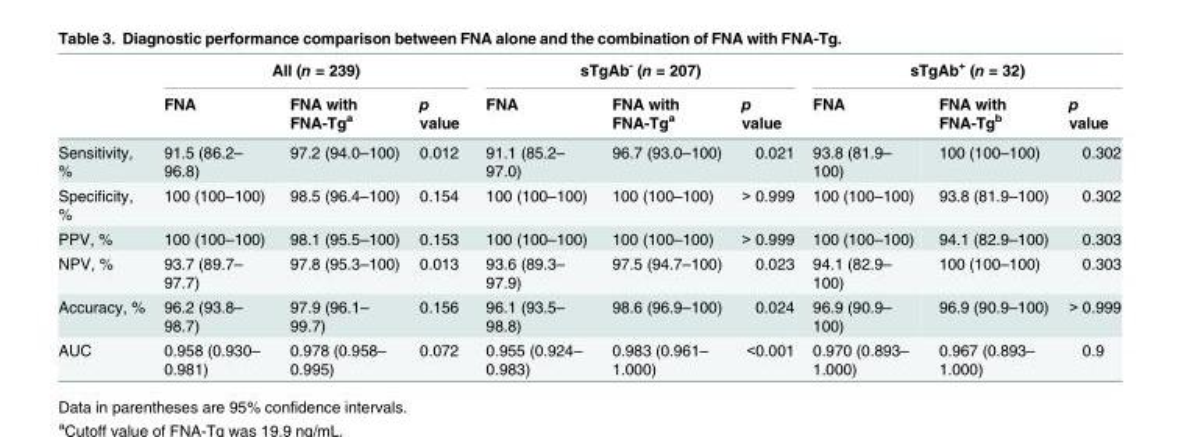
<table><thead><tr><td rowspan="2"></td><td colspan="3">All (n = 239)</td><td colspan="3">sTgAb<sup>-</sup> (n = 207)</td><td colspan="3">sTgAb<sup>+</sup> (n = 32)</td></tr><tr><td>FNA</td><td>FNA with FNA-Tg<sup>a</sup></td><td>p value</td><td>FNA</td><td>FNA with FNA-Tg<sup>a</sup></td><td>p value</td><td>FNA</td><td>FNA with FNA-Tg<sup>b</sup></td><td>p value</td></tr></thead><tbody><tr><td>Sensitivity, %</td><td>91.5 (86.2– 96.8)</td><td>97.2 (94.0–100)</td><td>0.012</td><td>91.1 (85.2– 97.0)</td><td>96.7 (93.0–100)</td><td>0.021</td><td>93.8 (81.9– 100)</td><td>100 (100–100)</td><td>0.302</td></tr><tr><td>Specificity, %</td><td>100 (100–100)</td><td>98.5 (96.4–100)</td><td>0.154</td><td>100 (100–100)</td><td>100 (100–100)</td><td>&gt; 0.999</td><td>100 (100–100)</td><td>93.8 (81.9–100)</td><td>0.302</td></tr><tr><td>PPV, %</td><td>100 (100–100)</td><td>98.1 (95.5–100)</td><td>0.153</td><td>100 (100–100)</td><td>100 (100–100)</td><td>&gt; 0.999</td><td>100 (100–100)</td><td>94.1 (82.9–100)</td><td>0.303</td></tr><tr><td>NPV, %</td><td>93.7 (89.7– 97.7)</td><td>97.8 (95.3–100)</td><td>0.013</td><td>93.6 (89.3– 97.9)</td><td>97.5 (94.7–100)</td><td>0.023</td><td>94.1 (82.9– 100)</td><td>100 (100–100)</td><td>0.303</td></tr><tr><td>Accuracy, %</td><td>96.2 (93.8– 98.7)</td><td>97.9 (96.1– 99.7)</td><td>0.156</td><td>96.1 (93.5– 98.8)</td><td>98.6 (96.9–100)</td><td>0.024</td><td>96.9 (90.9– 100)</td><td>96.9 (90.9–100)</td><td>&gt; 0.999</td></tr><tr><td>AUC</td><td>0.958 (0.930– 0.981)</td><td>0.978 (0.958– 0.995)</td><td>0.072</td><td>0.955 (0.924– 0.983)</td><td>0.983 (0.961– 1.000)</td><td>&lt;0.001</td><td>0.970 (0.893– 1.000)</td><td>0.967 (0.893– 1.000)</td><td>0.9</td></tr></tbody></table>